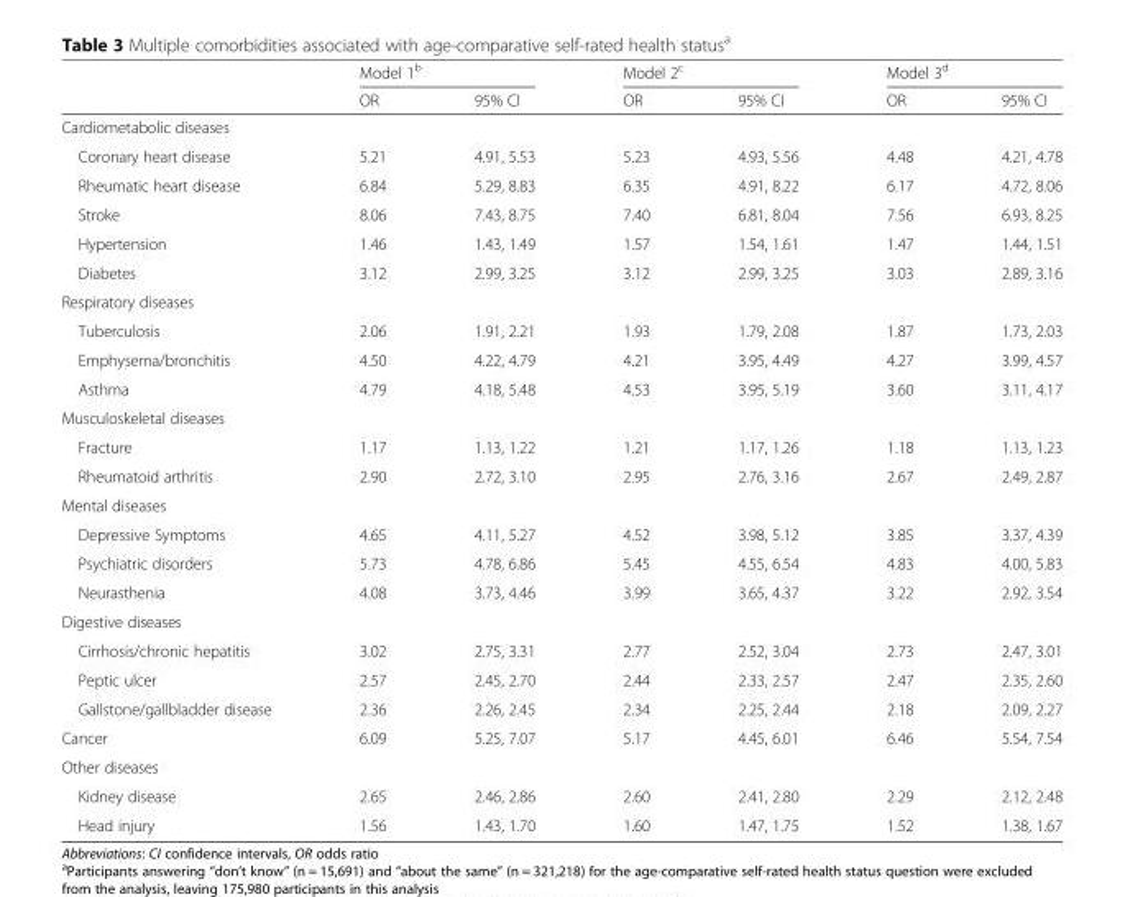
<table><thead><tr><td rowspan="2"></td><td colspan="2">Model 1<sup>b</sup></td><td colspan="2">Model 2<sup>c</sup></td><td colspan="2">Model 3<sup>d</sup></td></tr><tr><td>OR</td><td>95% CI</td><td>OR</td><td>95% CI</td><td>OR</td><td>95% CI</td></tr></thead><tbody><tr><td colspan="7">Cardiometabolic diseases</td></tr><tr><td>Coronary heart disease</td><td>5.21</td><td>4.91, 5.53</td><td>5.23</td><td>4.93, 5.56</td><td>4.48</td><td>4.21, 4.78</td></tr><tr><td>Rheumatic heart disease</td><td>6.84</td><td>5.29, 8.83</td><td>6.35</td><td>4.91, 8.22</td><td>6.17</td><td>4.72, 8.06</td></tr><tr><td>Stroke</td><td>8.06</td><td>7.43, 8.75</td><td>7.40</td><td>6.81, 8.04</td><td>7.56</td><td>6.93, 8.25</td></tr><tr><td>Hypertension</td><td>1.46</td><td>1.43, 1.49</td><td>1.57</td><td>1.54, 1.61</td><td>1.47</td><td>1.44, 1.51</td></tr><tr><td>Diabetes</td><td>3.12</td><td>2.99, 3.25</td><td>3.12</td><td>2.99, 3.25</td><td>3.03</td><td>2.89, 3.16</td></tr><tr><td colspan="7">Respiratory diseases</td></tr><tr><td>Tuberculosis</td><td>2.06</td><td>1.91, 2.21</td><td>1.93</td><td>1.79, 2.08</td><td>1.87</td><td>1.73, 2.03</td></tr><tr><td>Emphysema/bronchitis</td><td>4.50</td><td>4.22, 4.79</td><td>4.21</td><td>3.95, 4.49</td><td>4.27</td><td>3.99, 4.57</td></tr><tr><td>Asthma</td><td>4.79</td><td>4.18, 5.48</td><td>4.53</td><td>3.95, 5.19</td><td>3.60</td><td>3.11, 4.17</td></tr><tr><td colspan="7">Musculoskeletal diseases</td></tr><tr><td>Fracture</td><td>1.17</td><td>1.13, 1.22</td><td>1.21</td><td>1.17, 1.26</td><td>1.18</td><td>1.13, 1.23</td></tr><tr><td>Rheumatoid arthritis</td><td>2.90</td><td>2.72, 3.10</td><td>2.95</td><td>2.76, 3.16</td><td>2.67</td><td>2.49, 2.87</td></tr><tr><td colspan="7">Mental diseases</td></tr><tr><td>Depressive Symptoms</td><td>4.65</td><td>4.11, 5.27</td><td>4.52</td><td>3.98, 5.12</td><td>3.85</td><td>3.37, 4.39</td></tr><tr><td>Psychiatric disorders</td><td>5.73</td><td>4.78, 6.86</td><td>5.45</td><td>4.55, 6.54</td><td>4.83</td><td>4.00, 5.83</td></tr><tr><td>Neurasthenia</td><td>4.08</td><td>3.73, 4.46</td><td>3.99</td><td>3.65, 4.37</td><td>3.22</td><td>2.92, 3.54</td></tr><tr><td colspan="7">Digestive diseases</td></tr><tr><td>Cirrhosis/chronic hepatitis</td><td>3.02</td><td>2.75, 3.31</td><td>2.77</td><td>2.52, 3.04</td><td>2.73</td><td>2.47, 3.01</td></tr><tr><td>Peptic ulcer</td><td>2.57</td><td>2.45, 2.70</td><td>2.44</td><td>2.33, 2.57</td><td>2.47</td><td>2.35, 2.60</td></tr><tr><td>Gallstone/gallbladder disease</td><td>2.36</td><td>2.26, 2.45</td><td>2.34</td><td>2.25, 2.44</td><td>2.18</td><td>2.09, 2.27</td></tr><tr><td>Cancer</td><td>6.09</td><td>5.25, 7.07</td><td>5.17</td><td>4.45, 6.01</td><td>6.46</td><td>5.54, 7.54</td></tr><tr><td colspan="7">Other diseases</td></tr><tr><td>Kidney disease</td><td>2.65</td><td>2.46, 2.86</td><td>2.60</td><td>2.41, 2.80</td><td>2.29</td><td>2.12, 2.48</td></tr><tr><td>Head injury</td><td>1.56</td><td>1.43, 1.70</td><td>1.60</td><td>1.47, 1.75</td><td>1.52</td><td>1.38, 1.67</td></tr></tbody></table>